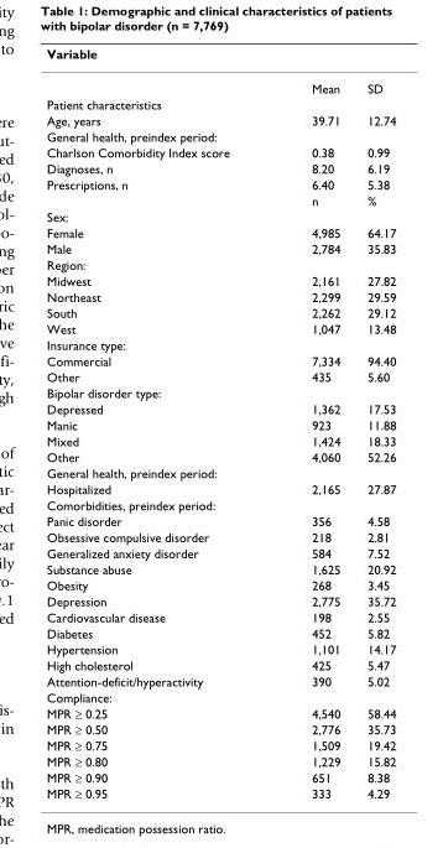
<table><thead><tr><td colspan="3">Variable</td></tr><tr><td></td><td>Mean</td><td>SD</td></tr></thead><tbody><tr><td colspan="3">Patient characteristics</td></tr><tr><td>Age, years</td><td>39.71</td><td>12.74</td></tr><tr><td colspan="3">General health, preindex period:</td></tr><tr><td>Charlson Comorbidity Index score</td><td>0.38</td><td>0.99</td></tr><tr><td>Diagnoses, n</td><td>8.20</td><td>6.19</td></tr><tr><td rowspan="2">Prescriptions, n</td><td>6.40</td><td>5.38</td></tr><tr><td>n</td><td>%</td></tr><tr><td colspan="3">Sex:</td></tr><tr><td>Female</td><td>4,985</td><td>64.17</td></tr><tr><td>Male</td><td>2,784</td><td>35.83</td></tr><tr><td colspan="3">Region:</td></tr><tr><td>Midwest</td><td>2,161</td><td>27.82</td></tr><tr><td>Northeast</td><td>2,299</td><td>29.59</td></tr><tr><td>South</td><td>2,262</td><td>29.12</td></tr><tr><td>West</td><td>1,047</td><td>13.48</td></tr><tr><td colspan="3">Insurance type:</td></tr><tr><td>Commercial</td><td>7,334</td><td>94.40</td></tr><tr><td>Other</td><td>435</td><td>5.60</td></tr><tr><td colspan="3">Bipolar disorder type:</td></tr><tr><td>Depressed</td><td>1,362</td><td>17.53</td></tr><tr><td>Manic</td><td>923</td><td>11.88</td></tr><tr><td>Mixed</td><td>1,424</td><td>18.33</td></tr><tr><td>Other</td><td>4,060</td><td>52.26</td></tr><tr><td colspan="3">General health, preindex period:</td></tr><tr><td>Hospitalized</td><td>2,165</td><td>27.87</td></tr><tr><td colspan="3">Comorbidities, preindex period:</td></tr><tr><td>Panic disorder</td><td>356</td><td>4.58</td></tr><tr><td>Obsessive compulsive disorder</td><td>218</td><td>2.81</td></tr><tr><td>Generalized anxiety disorder</td><td>584</td><td>7.52</td></tr><tr><td>Substance abuse</td><td>1,625</td><td>20.92</td></tr><tr><td>Obesity</td><td>268</td><td>3.45</td></tr><tr><td>Depression</td><td>2,775</td><td>35.72</td></tr><tr><td>Cardiovascular disease</td><td>198</td><td>2.55</td></tr><tr><td>Diabetes</td><td>452</td><td>5.82</td></tr><tr><td>Hypertension</td><td>1,101</td><td>14.17</td></tr><tr><td>High cholesterol</td><td>425</td><td>5.47</td></tr><tr><td>Attention-deficit/hyperactivity</td><td>390</td><td>5.02</td></tr><tr><td colspan="3">Compliance:</td></tr><tr><td>MPR ≥ 0.25</td><td>4,540</td><td>58.44</td></tr><tr><td>MPR ≥ 0.50</td><td>2,776</td><td>35.73</td></tr><tr><td>MPR ≥ 0.75</td><td>1,509</td><td>19.42</td></tr><tr><td>MPR ≥ 0.80</td><td>1,229</td><td>15.82</td></tr><tr><td>MPR ≥ 0.90</td><td>651</td><td>8.38</td></tr><tr><td>MPR ≥ 0.95</td><td>333</td><td>4.29</td></tr></tbody></table>